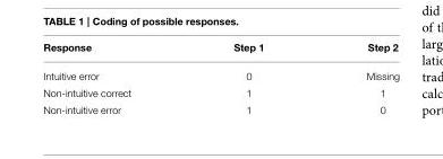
<table><thead><tr><td>Response</td><td>Step 1</td><td>Step 2</td></tr></thead><tbody><tr><td>Intuitive error</td><td>0</td><td>Missing</td></tr><tr><td>Non-intuitive correct</td><td>1</td><td>1</td></tr><tr><td>Non-intuitive error</td><td>1</td><td>0</td></tr></tbody></table>